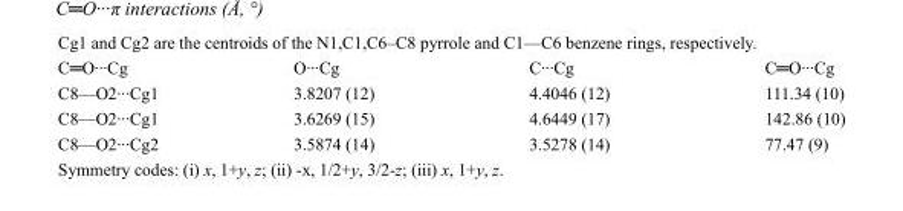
<table><tbody><tr><td>C═O···Cg</td><td>O···Cg</td><td>C···Cg</td><td>C═O···Cg</td></tr><tr><td>C8—O2···Cg1</td><td>3.8207 (12)</td><td>4.4046 (12)</td><td>111.34 (10)</td></tr><tr><td>C8—O2···Cg1</td><td>3.6269 (15)</td><td>4.6449 (17)</td><td>142.86 (10)</td></tr><tr><td>C8—O2···Cg2</td><td>3.5874 (14)</td><td>3.5278 (14)</td><td>77.47 (9)</td></tr></tbody></table>